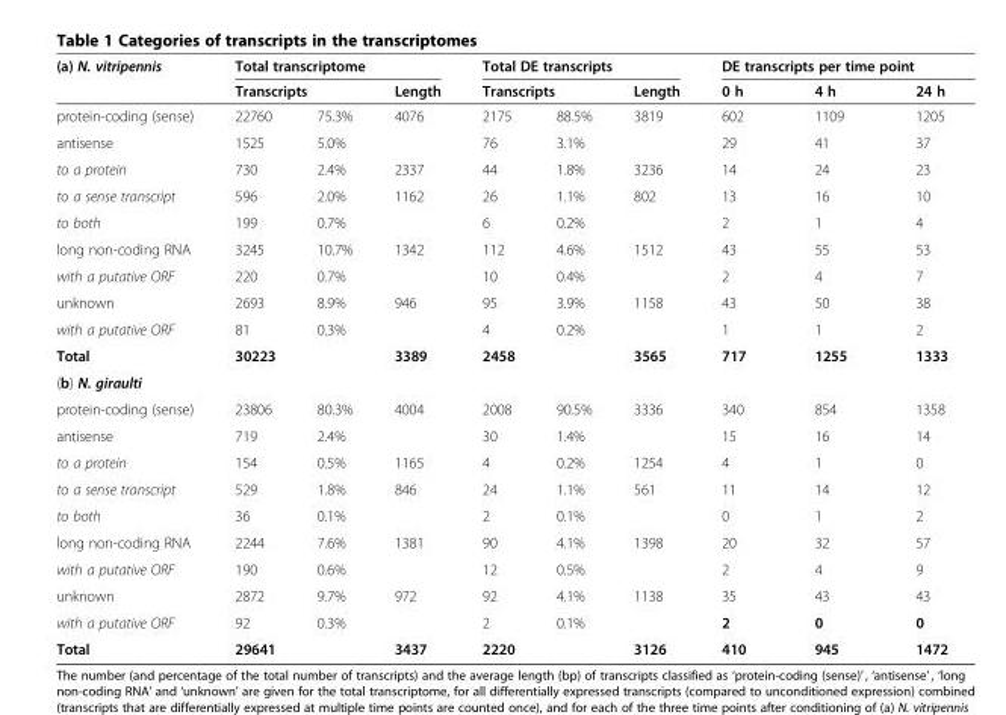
<table><thead><tr><td rowspan="3">(a) N. vitripennis protein-coding (sense)</td><td colspan="3">Total transcriptome</td><td colspan="3">Total DE transcripts</td><td colspan="3">DE transcripts per time point</td></tr><tr><td colspan="2">Transcripts</td><td rowspan="2">Length 4076</td><td colspan="2">Transcripts</td><td rowspan="2">Length 3819</td><td rowspan="2">0 h 602</td><td rowspan="2">4 h 1109</td><td rowspan="2">24 h 1205</td></tr><tr><td>22760</td><td>75.3%</td><td>2175</td><td>88.5%</td></tr></thead><tbody><tr><td>antisense</td><td>1525</td><td>5.0%</td><td></td><td>76</td><td>3.1%</td><td></td><td>29</td><td>41</td><td>37</td></tr><tr><td>to a protein</td><td>730</td><td>2.4%</td><td>2337</td><td>44</td><td>1.8%</td><td>3236</td><td>14</td><td>24</td><td>23</td></tr><tr><td>to a sense transcript</td><td>596</td><td>2.0%</td><td>1162</td><td>26</td><td>1.1%</td><td>802</td><td>13</td><td>16</td><td>10</td></tr><tr><td>to both</td><td>199</td><td>0.7%</td><td></td><td>6</td><td>0.2%</td><td></td><td>2</td><td>1</td><td>4</td></tr><tr><td>long non-coding RNA</td><td>3245</td><td>10.7%</td><td>1342</td><td>112</td><td>4.6%</td><td>1512</td><td>43</td><td>55</td><td>53</td></tr><tr><td>with a putative ORF</td><td>220</td><td>0.7%</td><td></td><td>10</td><td>0.4%</td><td></td><td>2</td><td>4</td><td>7</td></tr><tr><td>unknown</td><td>2693</td><td>8.9%</td><td>946</td><td>95</td><td>3.9%</td><td>1158</td><td>43</td><td>50</td><td>38</td></tr><tr><td>with a putative ORF</td><td>81</td><td>0.3%</td><td></td><td>4</td><td>0.2%</td><td></td><td>1</td><td>1</td><td>2</td></tr><tr><td>Total</td><td>30223</td><td></td><td>3389</td><td>2458</td><td></td><td>3565</td><td>717</td><td>1255</td><td>1333</td></tr><tr><td colspan="10">(b) N. giraulti</td></tr><tr><td>protein-coding (sense)</td><td>23806</td><td>80.3%</td><td>4004</td><td>2008</td><td>90.5%</td><td>3336</td><td>340</td><td>854</td><td>1358</td></tr><tr><td>antisense</td><td>719</td><td>2.4%</td><td></td><td>30</td><td>1.4%</td><td></td><td>15</td><td>16</td><td>14</td></tr><tr><td>to a protein</td><td>154</td><td>0.5%</td><td>1165</td><td>4</td><td>0.2%</td><td>1254</td><td>4</td><td>1</td><td>0</td></tr><tr><td>to a sense transcript</td><td>529</td><td>1.8%</td><td>846</td><td>24</td><td>1.1%</td><td>561</td><td>11</td><td>14</td><td>12</td></tr><tr><td>to both</td><td>36</td><td>0.1%</td><td></td><td>2</td><td>0.1%</td><td></td><td>0</td><td>1</td><td>2</td></tr><tr><td>long non-coding RNA</td><td>2244</td><td>7.6%</td><td>1381</td><td>90</td><td>4.1%</td><td>1398</td><td>20</td><td>32</td><td>57</td></tr><tr><td>with a putative ORF</td><td>190</td><td>0.6%</td><td></td><td>12</td><td>0.5%</td><td></td><td>2</td><td>4</td><td>9</td></tr><tr><td>unknown</td><td>2872</td><td>9.7%</td><td>972</td><td>92</td><td>4.1%</td><td>1138</td><td>35</td><td>43</td><td>43</td></tr><tr><td>with a putative ORF</td><td>92</td><td>0.3%</td><td></td><td>2</td><td>0.1%</td><td></td><td>2</td><td>0</td><td>0</td></tr><tr><td>Total</td><td>29641</td><td></td><td>3437</td><td>2220</td><td></td><td>3126</td><td>410</td><td>945</td><td>1472</td></tr></tbody></table>